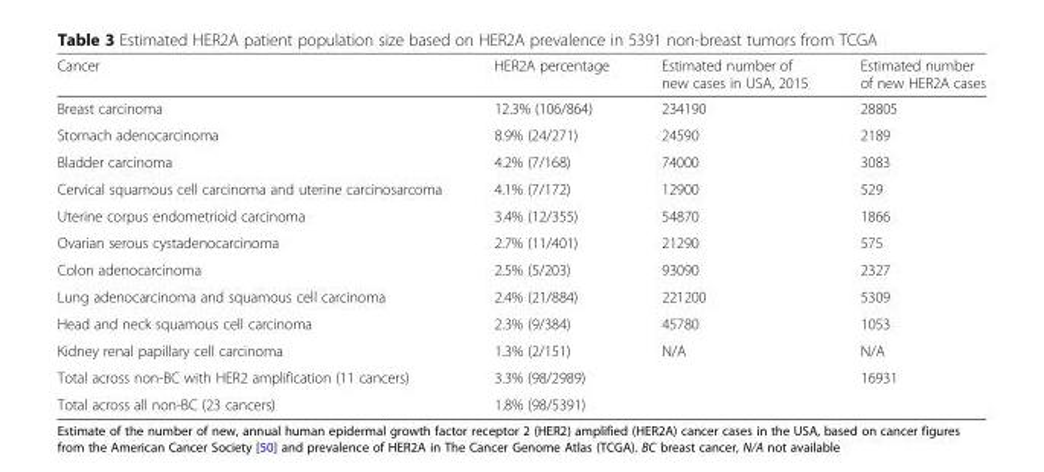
<table><thead><tr><td>Cancer</td><td>HER2A percentage</td><td>Estimated number of new cases in USA, 2015</td><td>Estimated number of new HER2A cases</td></tr></thead><tbody><tr><td>Breast carcinoma</td><td>12.3% (106/864)</td><td>234190</td><td>28805</td></tr><tr><td>Stomach adenocarcinoma</td><td>8.9% (24/271)</td><td>24590</td><td>2189</td></tr><tr><td>Bladder carcinoma</td><td>4.2% (7/168)</td><td>74000</td><td>3083</td></tr><tr><td>Cervical squamous cell carcinoma and uterine carcinosarcoma</td><td>4.1% (7/172)</td><td>12900</td><td>529</td></tr><tr><td>Uterine corpus endometrioid carcinoma</td><td>3.4% (12/355)</td><td>54870</td><td>1866</td></tr><tr><td>Ovarian serous cystadenocarcinoma</td><td>2.7% (11/401)</td><td>21290</td><td>575</td></tr><tr><td>Colon adenocarcinoma</td><td>2.5% (5/203)</td><td>93090</td><td>2327</td></tr><tr><td>Lung adenocarcinoma and squamous cell carcinoma</td><td>2.4% (21/884)</td><td>221200</td><td>5309</td></tr><tr><td>Head and neck squamous cell carcinoma</td><td>2.3% (9/384)</td><td>45780</td><td>1053</td></tr><tr><td>Kidney renal papillary cell carcinoma</td><td>1.3% (2/151)</td><td>N/A</td><td>N/A</td></tr><tr><td>Total across non-BC with HER2 amplification (11 cancers)</td><td>3.3% (98/2989)</td><td></td><td>16931</td></tr><tr><td>Total across all non-BC (23 cancers)</td><td>1.8% (98/5391)</td><td></td><td></td></tr></tbody></table>